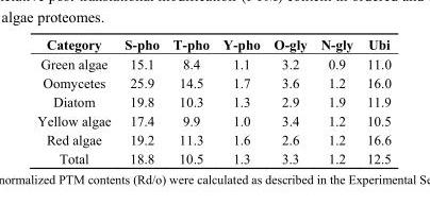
<table><thead><tr><td>Category</td><td>S-pho</td><td>T-pho</td><td>Y-pho</td><td>O-gly</td><td>N-gly</td><td>Ubi</td></tr></thead><tbody><tr><td>Green algae</td><td>15.1</td><td>8.4</td><td>1.1</td><td>3.2</td><td>0.9</td><td>11.0</td></tr><tr><td>Oomycetes</td><td>25.9</td><td>14.5</td><td>1.7</td><td>3.6</td><td>1.2</td><td>16.0</td></tr><tr><td>Diatom</td><td>19.8</td><td>10.3</td><td>1.3</td><td>2.9</td><td>1.9</td><td>11.9</td></tr><tr><td>Yellow algae</td><td>17.4</td><td>9.9</td><td>1.0</td><td>3.4</td><td>1.2</td><td>10.5</td></tr><tr><td>Red algae</td><td>19.2</td><td>11.3</td><td>1.6</td><td>2.6</td><td>1.2</td><td>16.6</td></tr><tr><td>Total</td><td>18.8</td><td>10.5</td><td>1.3</td><td>3.3</td><td>1.2</td><td>12.5</td></tr></tbody></table>